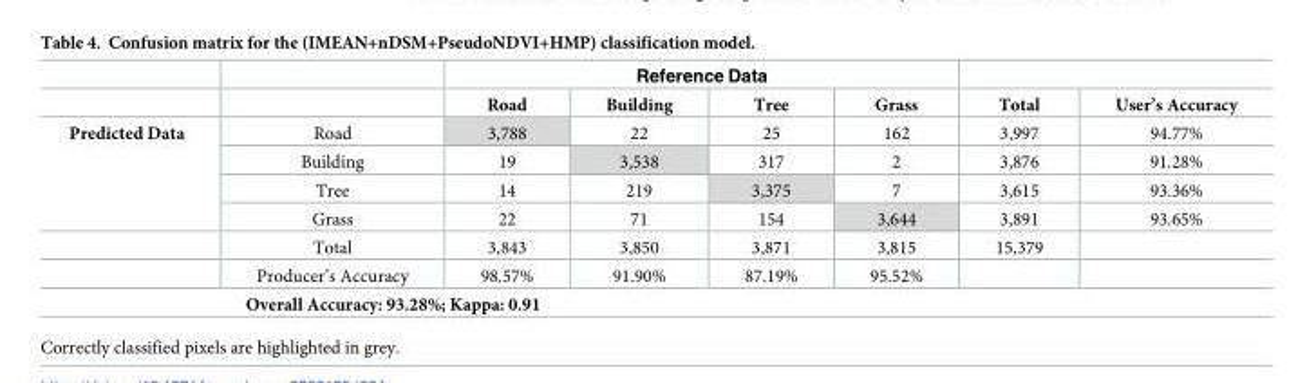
<table><thead><tr><td rowspan="2"></td><td rowspan="2"></td><td colspan="4">Reference Data</td><td rowspan="2">Total</td><td rowspan="2">User’s Accuracy</td></tr><tr><td>Road</td><td>Building</td><td>Tree</td><td>Grass</td></tr></thead><tbody><tr><td rowspan="6">Predicted Data</td><td>Road</td><td>3,788</td><td>22</td><td>25</td><td>162</td><td>3,997</td><td>94.77%</td></tr><tr><td>Building</td><td>19</td><td>3,538</td><td>317</td><td>2</td><td>3,876</td><td>91.28%</td></tr><tr><td>Tree</td><td>14</td><td>219</td><td>3,375</td><td>7</td><td>3,615</td><td>93.36%</td></tr><tr><td>Grass</td><td>22</td><td>71</td><td>154</td><td>3,644</td><td>3,891</td><td>93.65%</td></tr><tr><td>Total</td><td>3,843</td><td>3,850</td><td>3,871</td><td>3,815</td><td>15,379</td><td></td></tr><tr><td>Producer’s Accuracy</td><td>98.57%</td><td>91.90%</td><td>87.19%</td><td>95.52%</td><td></td><td></td></tr><tr><td colspan="8">Overall Accuracy: 93.28%; Kappa: 0.91</td></tr></tbody></table>